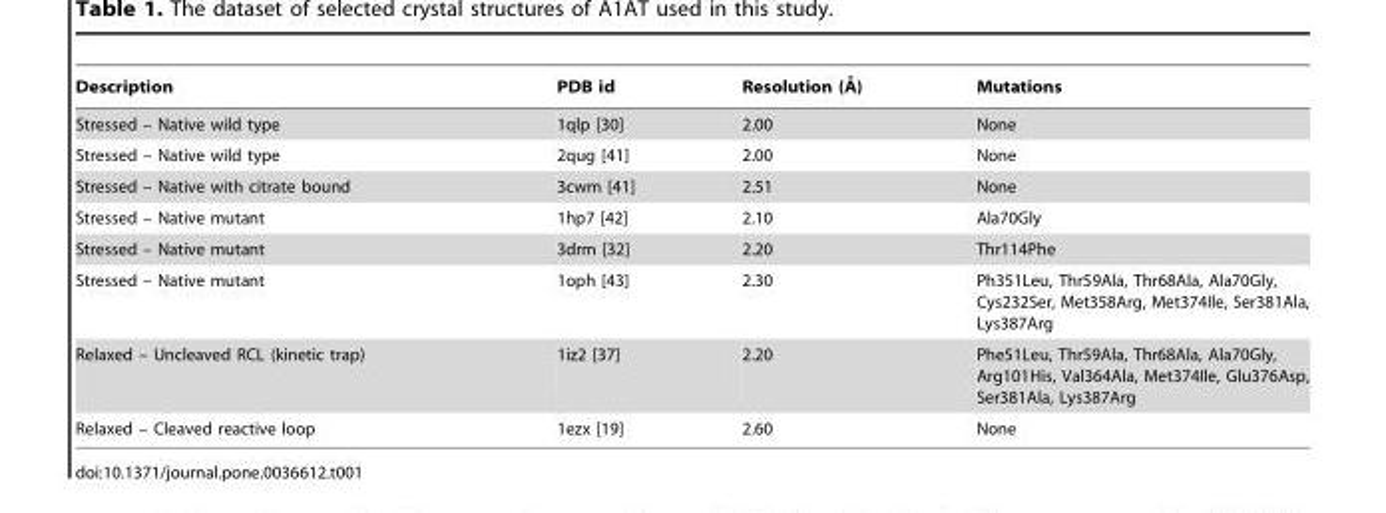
<table><thead><tr><td>Description</td><td>PDB id</td><td>Resolution (A˚ )</td><td>Mutations</td></tr></thead><tbody><tr><td>Stressed – Native wild type</td><td>1qlp [30]</td><td>2.00</td><td>None</td></tr><tr><td>Stressed – Native wild type</td><td>2qug [41]</td><td>2.00</td><td>None</td></tr><tr><td>Stressed – Native with citrate bound</td><td>3cwm [41]</td><td>2.51</td><td>None</td></tr><tr><td>Stressed – Native mutant</td><td>1hp7 [42]</td><td>2.10</td><td>Ala70Gly</td></tr><tr><td>Stressed – Native mutant</td><td>3drm [32]</td><td>2.20</td><td>Thr114Phe</td></tr><tr><td>Stressed – Native mutant</td><td>1oph [43]</td><td>2.30</td><td>Ph351Leu, Thr59Ala, Thr68Ala, Ala70Gly, Cys232Ser, Met358Arg, Met374Ile, Ser381Ala, Lys387Arg</td></tr><tr><td>Relaxed – Uncleaved RCL (kinetic trap)</td><td>1iz2 [37]</td><td>2.20</td><td>Phe51Leu, Thr59Ala, Thr68Ala, Ala70Gly, Arg101His, Val364Ala, Met374Ile, Glu376Asp, Ser381Ala, Lys387Arg</td></tr><tr><td>Relaxed – Cleaved reactive loop</td><td>1ezx [19]</td><td>2.60</td><td>None</td></tr></tbody></table>